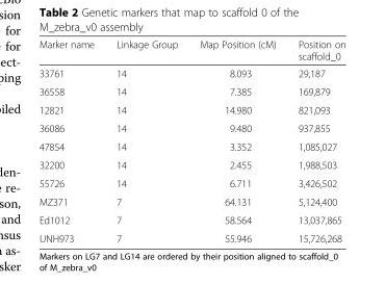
<table><thead><tr><td>Marker name</td><td>Linkage Group</td><td>Map Position (cM)</td><td>Position on scaffold_0</td></tr></thead><tbody><tr><td>33761</td><td>14</td><td>8.093</td><td>29,187</td></tr><tr><td>36558</td><td>14</td><td>7.385</td><td>169,879</td></tr><tr><td>12821</td><td>14</td><td>14.980</td><td>821,093</td></tr><tr><td>36086</td><td>14</td><td>9.480</td><td>937,855</td></tr><tr><td>47854</td><td>14</td><td>3.352</td><td>1,085,027</td></tr><tr><td>32200</td><td>14</td><td>2.455</td><td>1,988,503</td></tr><tr><td>55726</td><td>14</td><td>6.711</td><td>3,426,502</td></tr><tr><td>MZ371</td><td>7</td><td>64.131</td><td>5,124,400</td></tr><tr><td>Ed1012</td><td>7</td><td>58.564</td><td>13,037,865</td></tr><tr><td>UNH973</td><td>7</td><td>55.946</td><td>15,726,268</td></tr></tbody></table>